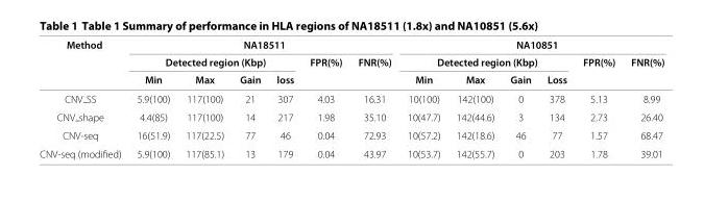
<table><thead><tr><td rowspan="3">Method</td><td colspan="6">NA18511</td><td colspan="6">NA10851</td></tr><tr><td colspan="4">Detected region (Kbp)</td><td rowspan="2">FPR(%)</td><td rowspan="2">FNR(%)</td><td colspan="4">Detected region (Kbp)</td><td rowspan="2">FPR(%)</td><td rowspan="2">FNR(%)</td></tr><tr><td>Min</td><td>Max</td><td>Gain</td><td>loss</td><td>Min</td><td>Max</td><td>Gain</td><td>Loss</td></tr></thead><tbody><tr><td>CNV SS</td><td>5.9(100)</td><td>117(100)</td><td>21</td><td>307</td><td>4.03</td><td>16.31</td><td>10(100)</td><td>142(100)</td><td>0</td><td>378</td><td>5.13</td><td>8.99</td></tr><tr><td>CNV shape</td><td>4.4(85)</td><td>117(100)</td><td>14</td><td>217</td><td>1.98</td><td>35.10</td><td>10(47.7)</td><td>142(44.6)</td><td>3</td><td>134</td><td>2.73</td><td>26.40</td></tr><tr><td>CNV-seq</td><td>16(51.9)</td><td>117(22.5)</td><td>77</td><td>46</td><td>0.04</td><td>72.93</td><td>10(57.2)</td><td>142(18.6)</td><td>46</td><td>77</td><td>1.57</td><td>68.47</td></tr><tr><td>CNV-seq (modified)</td><td>5.9(100)</td><td>117(85.1)</td><td>13</td><td>179</td><td>0.04</td><td>43.97</td><td>10(53.7)</td><td>142(55.7)</td><td>0</td><td>203</td><td>1.78</td><td>39.01</td></tr></tbody></table>